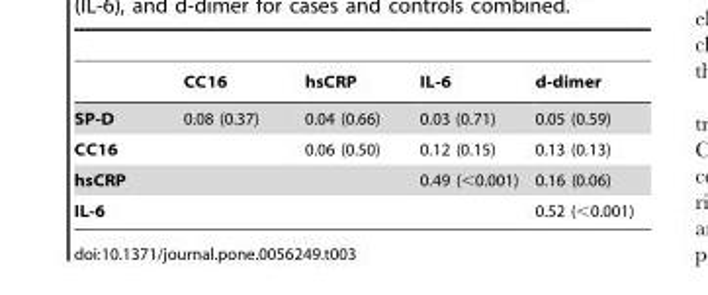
<table><thead><tr><td></td><td>CC16</td><td>hsCRP</td><td>IL-6</td><td>d-dimer</td></tr></thead><tbody><tr><td>SP-D</td><td>0.08 (0.37)</td><td>0.04 (0.66)</td><td>0.03 (0.71)</td><td>0.05 (0.59)</td></tr><tr><td>CC16</td><td></td><td>0.06 (0.50)</td><td>0.12 (0.15)</td><td>0.13 (0.13)</td></tr><tr><td>hsCRP</td><td></td><td></td><td>0.49 (&lt;0.001)</td><td>0.16 (0.06)</td></tr><tr><td>IL-6</td><td></td><td></td><td></td><td>0.52 (&lt;0.001)</td></tr></tbody></table>